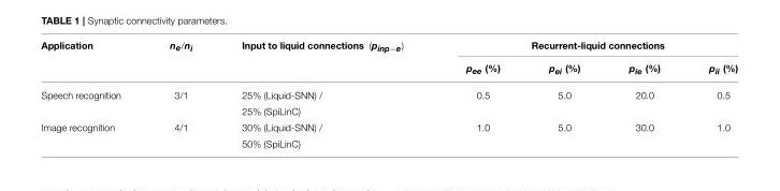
<table><thead><tr><td rowspan="2">Application</td><td rowspan="2">n<sub>e</sub>/n<sub>i</sub></td><td rowspan="2">Input to liquid connections (p<sub>inp−e</sub>)</td><td colspan="4">Recurrent-liquid connections</td></tr><tr><td>p<sub>ee</sub> (%)</td><td>p<sub>ei</sub> (%)</td><td>p<sub>ie</sub> (%)</td><td>p<sub>ii</sub> (%)</td></tr></thead><tbody><tr><td rowspan="2">Speech recognition</td><td>3/1</td><td>25% (Liquid-SNN) /</td><td>0.5</td><td>5.0</td><td>20.0</td><td>0.5</td></tr><tr><td></td><td>25% (SpiLinC)</td><td></td><td></td><td></td><td></td></tr><tr><td rowspan="2">Image recognition</td><td>4/1</td><td>30% (Liquid-SNN) /</td><td>1.0</td><td>5.0</td><td>30.0</td><td>1.0</td></tr><tr><td></td><td>50% (SpiLinC)</td><td></td><td></td><td></td><td></td></tr></tbody></table>